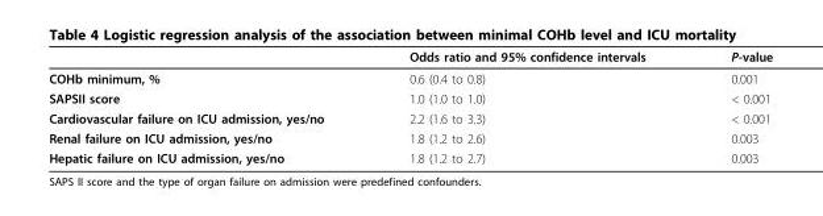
<table><thead><tr><td></td><td>Odds ratio and 95% confidence intervals</td><td>P-value</td></tr></thead><tbody><tr><td>COHb minimum, %</td><td>0.6 (0.4 to 0.8)</td><td>0.001</td></tr><tr><td>SAPSII score</td><td>1.0 (1.0 to 1.0)</td><td>&lt; 0.001</td></tr><tr><td>Cardiovascular failure on ICU admission, yes/no</td><td>2.2 (1.6 to 3.3)</td><td>&lt; 0.001</td></tr><tr><td>Renal failure on ICU admission, yes/no</td><td>1.8 (1.2 to 2.6)</td><td>0.003</td></tr><tr><td>Hepatic failure on ICU admission, yes/no</td><td>1.8 (1.2 to 2.7)</td><td>0.003</td></tr></tbody></table>